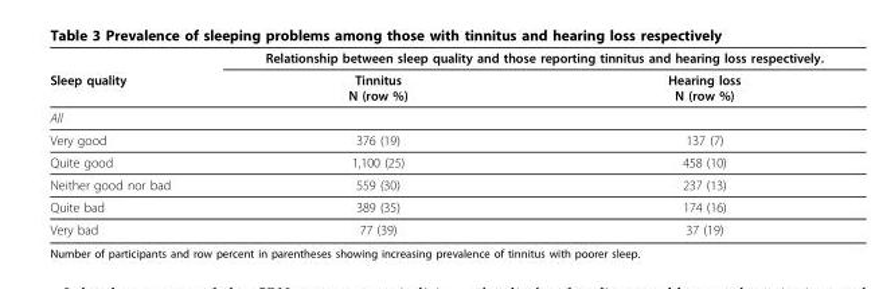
<table><thead><tr><td rowspan="2">Sleep quality</td><td colspan="2">Relationship between sleep quality and those reporting tinnitus and hearing loss respectively.</td></tr><tr><td>Tinnitus N (row %)</td><td>Hearing loss N (row %)</td></tr></thead><tbody><tr><td colspan="3">All</td></tr><tr><td>Very good</td><td>376 (19)</td><td>137 (7)</td></tr><tr><td>Quite good</td><td>1,100 (25)</td><td>458 (10)</td></tr><tr><td>Neither good nor bad</td><td>559 (30)</td><td>237 (13)</td></tr><tr><td>Quite bad</td><td>389 (35)</td><td>174 (16)</td></tr><tr><td>Very bad</td><td>77 (39)</td><td>37 (19)</td></tr></tbody></table>